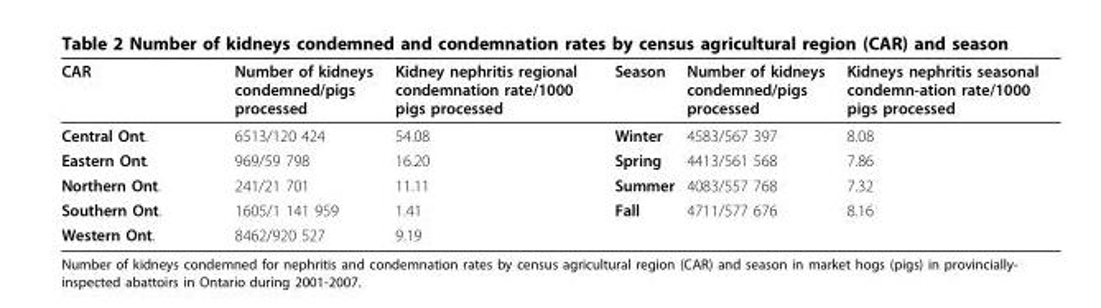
<table><thead><tr><td>CAR</td><td>Number of kidneys condemned/pigs processed</td><td>Kidney nephritis regional condemnation rate/1000 pigs processed</td><td>Season</td><td>Number of kidneys condemned/pigs processed</td><td>Kidneys nephritis seasonal condemn-ation rate/1000 pigs processed</td></tr></thead><tbody><tr><td>Central Ont.</td><td>6513/120 424</td><td>54.08</td><td>Winter</td><td>4583/567 397</td><td>8.08</td></tr><tr><td>Eastern Ont.</td><td>969/59 798</td><td>16.20</td><td>Spring</td><td>4413/561 568</td><td>7.86</td></tr><tr><td>Northern Ont.</td><td>241/21 701</td><td>11.11</td><td>Summer</td><td>4083/557 768</td><td>7.32</td></tr><tr><td>Southern Ont.</td><td>1605/1 141 959</td><td>1.41</td><td>Fall</td><td>4711/577 676</td><td>8.16</td></tr><tr><td>Western Ont.</td><td>8462/920 527</td><td>9.19</td><td></td><td></td><td></td></tr></tbody></table>